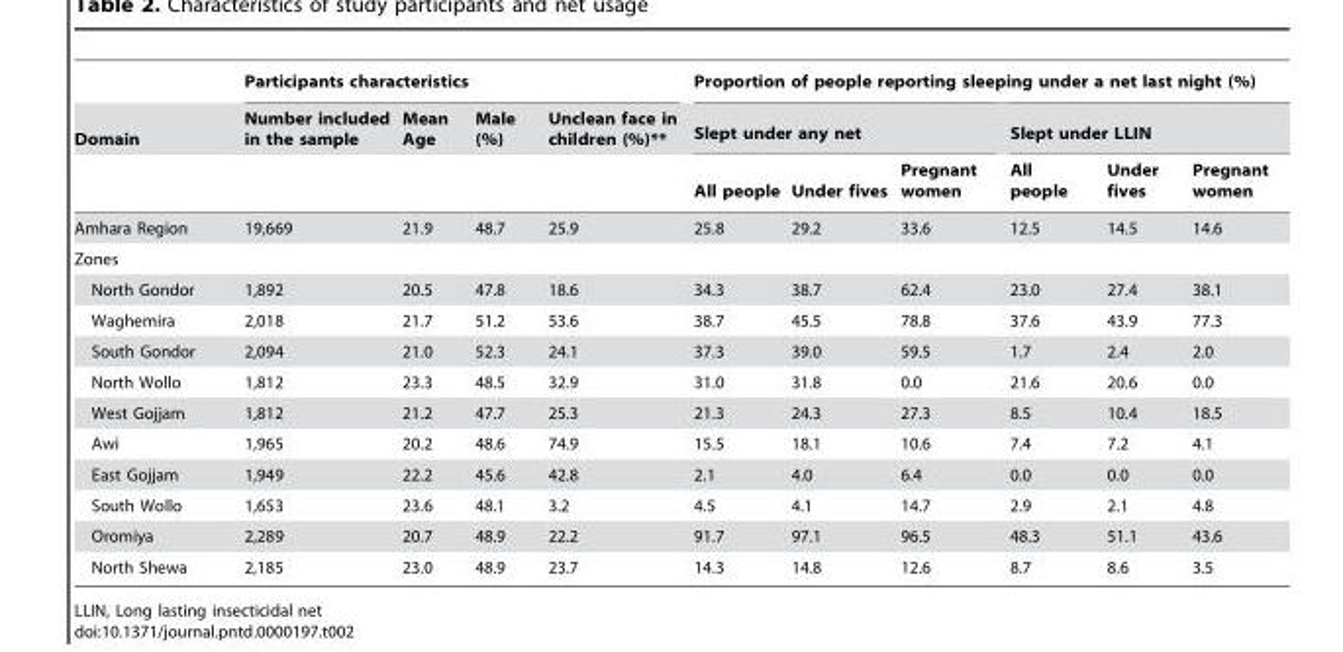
<table><thead><tr><td rowspan="3">Domain</td><td colspan="4">Participants characteristics</td><td colspan="6">Proportion of people reporting sleeping under a net last night (%)</td></tr><tr><td rowspan="2">Number included in the sample</td><td rowspan="2">Mean Age</td><td rowspan="2">Male (%)</td><td rowspan="2">Unclean face in children (%)**</td><td colspan="3">Slept under any net</td><td colspan="3">Slept under LLIN</td></tr><tr><td>All people</td><td>Under fives</td><td>Pregnant women</td><td>All people</td><td>Under fives</td><td>Pregnant women</td></tr></thead><tbody><tr><td>Amhara Region</td><td>19,669</td><td>21.9</td><td>48.7</td><td>25.9</td><td>25.8</td><td>29.2</td><td>33.6</td><td>12.5</td><td>14.5</td><td>14.6</td></tr><tr><td colspan="11">Zones</td></tr><tr><td>North Gondor</td><td>1,892</td><td>20.5</td><td>47.8</td><td>18.6</td><td>34.3</td><td>38.7</td><td>62.4</td><td>23.0</td><td>27.4</td><td>38.1</td></tr><tr><td>Waghemira</td><td>2,018</td><td>21.7</td><td>51.2</td><td>53.6</td><td>38.7</td><td>45.5</td><td>78.8</td><td>37.6</td><td>43.9</td><td>77.3</td></tr><tr><td>South Gondor</td><td>2,094</td><td>21.0</td><td>52.3</td><td>24.1</td><td>37.3</td><td>39.0</td><td>59.5</td><td>1.7</td><td>2.4</td><td>2.0</td></tr><tr><td>North Wollo</td><td>1,812</td><td>23.3</td><td>48.5</td><td>32.9</td><td>31.0</td><td>31.8</td><td>0.0</td><td>21.6</td><td>20.6</td><td>0.0</td></tr><tr><td>West Gojjam</td><td>1,812</td><td>21.2</td><td>47.7</td><td>25.3</td><td>21.3</td><td>24.3</td><td>27.3</td><td>8.5</td><td>10.4</td><td>18.5</td></tr><tr><td>Awi</td><td>1,965</td><td>20.2</td><td>48.6</td><td>74.9</td><td>15.5</td><td>18.1</td><td>10.6</td><td>7.4</td><td>7.2</td><td>4.1</td></tr><tr><td>East Gojjam</td><td>1,949</td><td>22.2</td><td>45.6</td><td>42.8</td><td>2.1</td><td>4.0</td><td>6.4</td><td>0.0</td><td>0.0</td><td>0.0</td></tr><tr><td>South Wollo</td><td>1,653</td><td>23.6</td><td>48.1</td><td>3.2</td><td>4.5</td><td>4.1</td><td>14.7</td><td>2.9</td><td>2.1</td><td>4.8</td></tr><tr><td>Oromiya</td><td>2,289</td><td>20.7</td><td>48.9</td><td>22.2</td><td>91.7</td><td>97.1</td><td>96.5</td><td>48.3</td><td>51.1</td><td>43.6</td></tr><tr><td>North Shewa</td><td>2,185</td><td>23.0</td><td>48.9</td><td>23.7</td><td>14.3</td><td>14.8</td><td>12.6</td><td>8.7</td><td>8.6</td><td>3.5</td></tr></tbody></table>